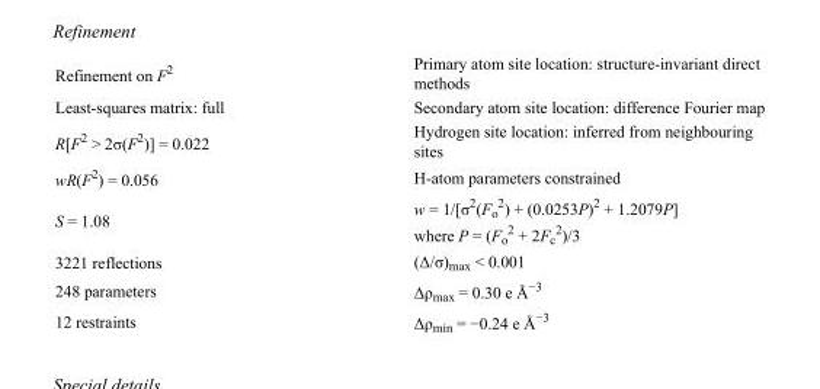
<table><tbody><tr><td>Refinement on F<sup>2</sup></td><td>Primary atom site location: structure-invariant direct methods</td></tr><tr><td>Least-squares matrix: full</td><td>Secondary atom site location: difference Fourier map</td></tr><tr><td>R[F<sup>2</sup> &gt; 2σ(F<sup>2</sup>)] = 0.022</td><td>Hydrogen site location: inferred from neighbouring sites</td></tr><tr><td>wR(F<sup>2</sup>) = 0.056</td><td>H-atom parameters constrained</td></tr><tr><td>S = 1.08</td><td>w = 1/[σ<sup>2</sup>(F<sub>o</sub> <sup>2</sup>) + (0.0253P)<sup>2</sup> + 1.2079P] where P = (F<sub>o</sub> <sup>2</sup> + 2F<sub>c</sub> <sup>2</sup>)/3</td></tr><tr><td>3221 reflections</td><td>(Δ/σ)<sub>max</sub> &lt; 0.001</td></tr><tr><td>248 parameters</td><td>Δρ<sub>max</sub> = 0.30 e Å<sup>−3</sup></td></tr><tr><td>12 restraints</td><td>Δρ<sub>min</sub> = −0.24 e Å<sup>−3</sup></td></tr></tbody></table>